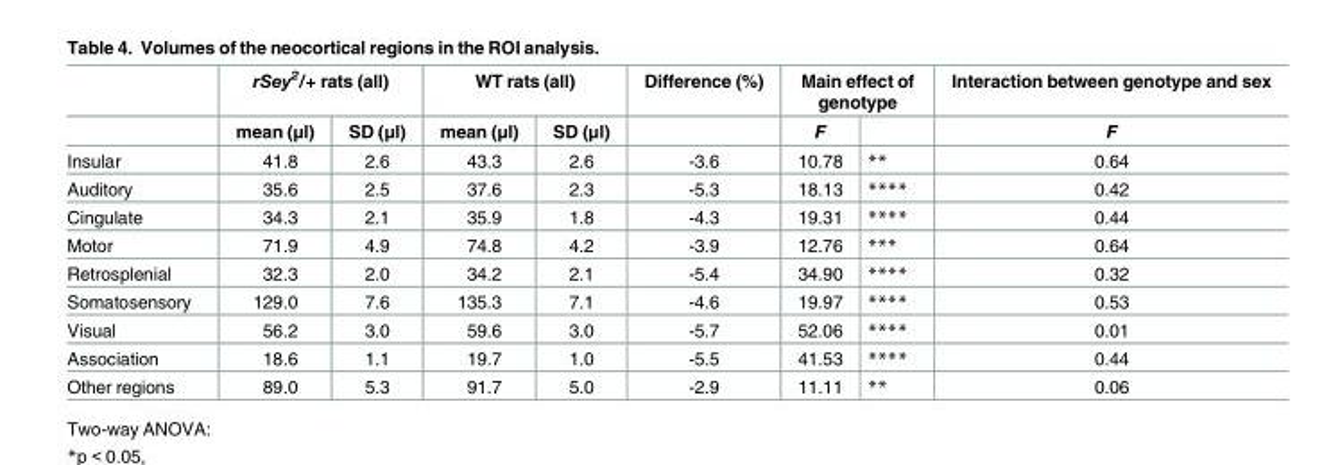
<table><thead><tr><td rowspan="2"></td><td colspan="2">rSey<sup>2</sup>/+ rats (all)</td><td colspan="2">WT rats (all)</td><td rowspan="2">Difference (%)</td><td colspan="2">Main effect of genotype</td><td rowspan="2">Interaction between genotype and sex F</td></tr><tr><td>mean (μl)</td><td>SD (μl)</td><td>mean (μl)</td><td>SD (μl)</td><td>F</td><td></td></tr></thead><tbody><tr><td>Insular</td><td>41.8</td><td>2.6</td><td>43.3</td><td>2.6</td><td>-3.6</td><td>10.78</td><td>**</td><td>0.64</td></tr><tr><td>Auditory</td><td>35.6</td><td>2.5</td><td>37.6</td><td>2.3</td><td>-5.3</td><td>18.13</td><td>****</td><td>0.42</td></tr><tr><td>Cingulate</td><td>34.3</td><td>2.1</td><td>35.9</td><td>1.8</td><td>-4.3</td><td>19.31</td><td>****</td><td>0.44</td></tr><tr><td>Motor</td><td>71.9</td><td>4.9</td><td>74.8</td><td>4.2</td><td>-3.9</td><td>12.76</td><td>***</td><td>0.64</td></tr><tr><td>Retrosplenial</td><td>32.3</td><td>2.0</td><td>34.2</td><td>2.1</td><td>-5.4</td><td>34.90</td><td>****</td><td>0.32</td></tr><tr><td>Somatosensory</td><td>129.0</td><td>7.6</td><td>135.3</td><td>7.1</td><td>-4.6</td><td>19.97</td><td>****</td><td>0.53</td></tr><tr><td>Visual</td><td>56.2</td><td>3.0</td><td>59.6</td><td>3.0</td><td>-5.7</td><td>52.06</td><td>****</td><td>0.01</td></tr><tr><td>Association</td><td>18.6</td><td>1.1</td><td>19.7</td><td>1.0</td><td>-5.5</td><td>41.53</td><td>****</td><td>0.44</td></tr><tr><td>Other regions</td><td>89.0</td><td>5.3</td><td>91.7</td><td>5.0</td><td>-2.9</td><td>11.11</td><td>**</td><td>0.06</td></tr></tbody></table>